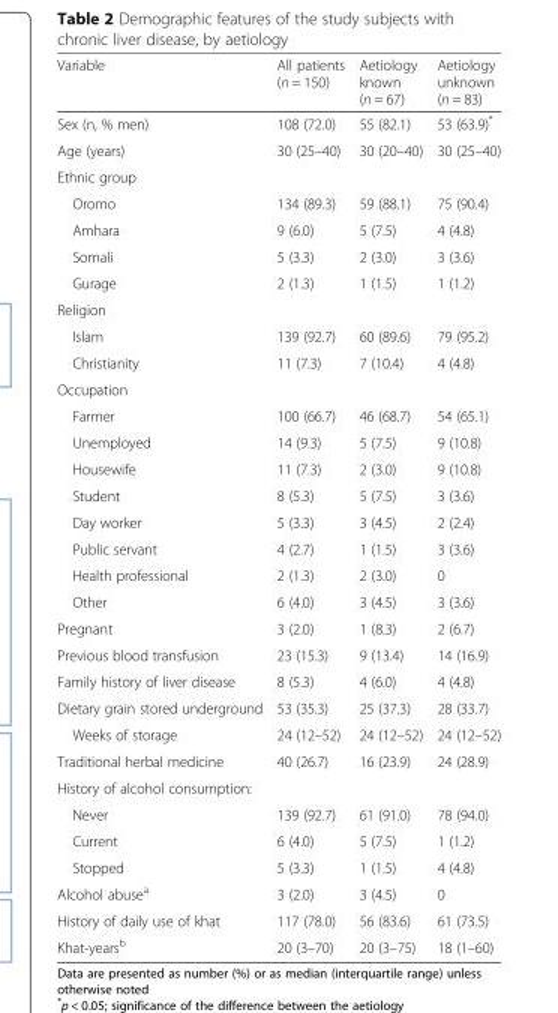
<table><thead><tr><td>Variable</td><td>All patients (n = 150)</td><td>Aetiology known (n = 67)</td><td>Aetiology unknown (n = 83)</td></tr></thead><tbody><tr><td>Sex (n, % men)</td><td>108 (72.0)</td><td>55 (82.1)</td><td>53 (63.9)*</td></tr><tr><td>Age (years)</td><td>30 (25–40)</td><td>30 (20–40)</td><td>30 (25–40)</td></tr><tr><td colspan="4">Ethnic group</td></tr><tr><td>Oromo</td><td>134 (89.3)</td><td>59 (88.1)</td><td>75 (90.4)</td></tr><tr><td>Amhara</td><td>9 (6.0)</td><td>5 (7.5)</td><td>4 (4.8)</td></tr><tr><td>Somali</td><td>5 (3.3)</td><td>2 (3.0)</td><td>3 (3.6)</td></tr><tr><td>Gurage</td><td>2 (1.3)</td><td>1 (1.5)</td><td>1 (1.2)</td></tr><tr><td colspan="4">Religion</td></tr><tr><td>Islam</td><td>139 (92.7)</td><td>60 (89.6)</td><td>79 (95.2)</td></tr><tr><td>Christianity</td><td>11 (7.3)</td><td>7 (10.4)</td><td>4 (4.8)</td></tr><tr><td colspan="4">Occupation</td></tr><tr><td>Farmer</td><td>100 (66.7)</td><td>46 (68.7)</td><td>54 (65.1)</td></tr><tr><td>Unemployed</td><td>14 (9.3)</td><td>5 (7.5)</td><td>9 (10.8)</td></tr><tr><td>Housewife</td><td>11 (7.3)</td><td>2 (3.0)</td><td>9 (10.8)</td></tr><tr><td>Student</td><td>8 (5.3)</td><td>5 (7.5)</td><td>3 (3.6)</td></tr><tr><td>Day worker</td><td>5 (3.3)</td><td>3 (4.5)</td><td>2 (2.4)</td></tr><tr><td>Public servant</td><td>4 (2.7)</td><td>1 (1.5)</td><td>3 (3.6)</td></tr><tr><td>Health professional</td><td>2 (1.3)</td><td>2 (3.0)</td><td>0</td></tr><tr><td>Other</td><td>6 (4.0)</td><td>3 (4.5)</td><td>3 (3.6)</td></tr><tr><td>Pregnant</td><td>3 (2.0)</td><td>1 (8.3)</td><td>2 (6.7)</td></tr><tr><td>Previous blood transfusion</td><td>23 (15.3)</td><td>9 (13.4)</td><td>14 (16.9)</td></tr><tr><td>Family history of liver disease</td><td>8 (5.3)</td><td>4 (6.0)</td><td>4 (4.8)</td></tr><tr><td>Dietary grain stored underground</td><td>53 (35.3)</td><td>25 (37.3)</td><td>28 (33.7)</td></tr><tr><td>Weeks of storage</td><td>24 (12–52)</td><td>24 (12–52)</td><td>24 (12–52)</td></tr><tr><td>Traditional herbal medicine</td><td>40 (26.7)</td><td>16 (23.9)</td><td>24 (28.9)</td></tr><tr><td colspan="4">History of alcohol consumption:</td></tr><tr><td>Never</td><td>139 (92.7)</td><td>61 (91.0)</td><td>78 (94.0)</td></tr><tr><td>Current</td><td>6 (4.0)</td><td>5 (7.5)</td><td>1 (1.2)</td></tr><tr><td>Stopped</td><td>5 (3.3)</td><td>1 (1.5)</td><td>4 (4.8)</td></tr><tr><td>Alcohol abuse<sup>a</sup></td><td>3 (2.0)</td><td>3 (4.5)</td><td>0</td></tr><tr><td>History of daily use of khat</td><td>117 (78.0)</td><td>56 (83.6)</td><td>61 (73.5)</td></tr><tr><td>Khat-years<sup>b</sup></td><td>20 (3–70)</td><td>20 (3–75)</td><td>18 (1–60)</td></tr></tbody></table>